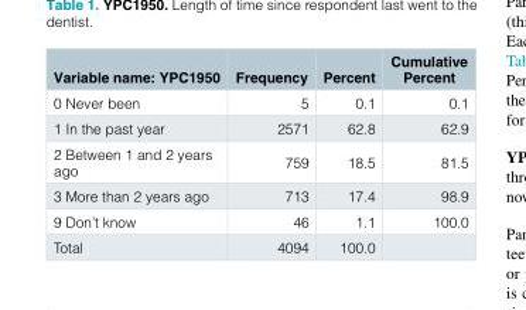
<table><thead><tr><td>Variable name: YPC1950</td><td>Frequency</td><td>Percent</td><td>Cumulative Percent</td></tr></thead><tbody><tr><td>0 Never been</td><td>5</td><td>0.1</td><td>0.1</td></tr><tr><td>1 In the past year</td><td>2571</td><td>62.8</td><td>62.9</td></tr><tr><td>2 Between 1 and 2 years ago</td><td>759</td><td>18.5</td><td>81.5</td></tr><tr><td>3 More than 2 years ago</td><td>713</td><td>17.4</td><td>98.9</td></tr><tr><td>9 Don’t know</td><td>46</td><td>1.1</td><td>100.0</td></tr><tr><td>Total</td><td>4094</td><td>100.0</td><td></td></tr></tbody></table>